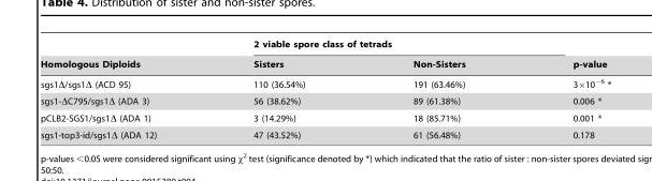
<table><thead><tr><td rowspan="2">Homologous Diploids</td><td colspan="2">2 viable spore class of tetrads</td><td rowspan="2">p-value</td></tr><tr><td>Sisters</td><td>Non-Sisters</td></tr></thead><tbody><tr><td>sgs1Δ/sgs1Δ (ACD 95)</td><td>110 (36.54%)</td><td>191 (63.46%)</td><td>3×10<sup>−6</sup> *</td></tr><tr><td>sgs1-ΔC795/sgs1Δ (ADA 3)</td><td>56 (38.62%)</td><td>89 (61.38%)</td><td>0.006 *</td></tr><tr><td>pCLB2-SGS1/sgs1Δ (ADA 1)</td><td>3 (14.29%)</td><td>18 (85.71%)</td><td>0.001 *</td></tr><tr><td>sgs1-top3-id/sgs1Δ (ADA 12)</td><td>47 (43.52%)</td><td>61 (56.48%)</td><td>0.178</td></tr></tbody></table>